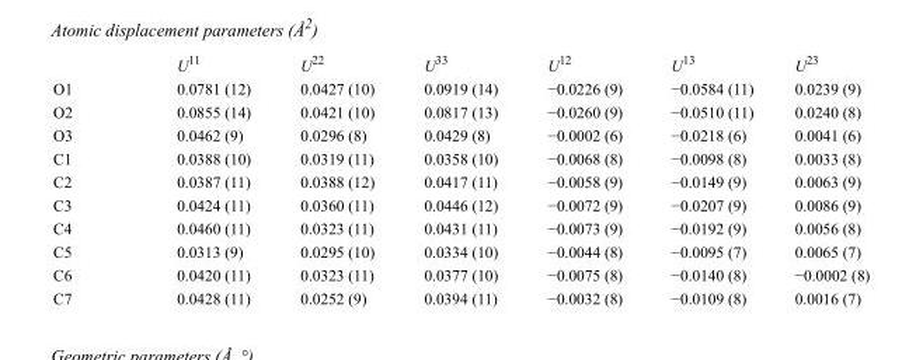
<table><thead><tr><td></td><td>U<sup>11</sup></td><td>U<sup>22</sup></td><td>U<sup>33</sup></td><td>U<sup>12</sup></td><td>U<sup>13</sup></td><td>U<sup>23</sup></td></tr></thead><tbody><tr><td>O1</td><td>0.0781 (12)</td><td>0.0427 (10)</td><td>0.0919 (14)</td><td>−0.0226 (9)</td><td>−0.0584 (11)</td><td>0.0239 (9)</td></tr><tr><td>O2</td><td>0.0855 (14)</td><td>0.0421 (10)</td><td>0.0817 (13)</td><td>−0.0260 (9)</td><td>−0.0510 (11)</td><td>0.0240 (8)</td></tr><tr><td>O3</td><td>0.0462 (9)</td><td>0.0296 (8)</td><td>0.0429 (8)</td><td>−0.0002 (6)</td><td>−0.0218 (6)</td><td>0.0041 (6)</td></tr><tr><td>C1</td><td>0.0388 (10)</td><td>0.0319 (11)</td><td>0.0358 (10)</td><td>−0.0068 (8)</td><td>−0.0098 (8)</td><td>0.0033 (8)</td></tr><tr><td>C2</td><td>0.0387 (11)</td><td>0.0388 (12)</td><td>0.0417 (11)</td><td>−0.0058 (9)</td><td>−0.0149 (9)</td><td>0.0063 (9)</td></tr><tr><td>C3</td><td>0.0424 (11)</td><td>0.0360 (11)</td><td>0.0446 (12)</td><td>−0.0072 (9)</td><td>−0.0207 (9)</td><td>0.0086 (9)</td></tr><tr><td>C4</td><td>0.0460 (11)</td><td>0.0323 (11)</td><td>0.0431 (11)</td><td>−0.0073 (9)</td><td>−0.0192 (9)</td><td>0.0056 (8)</td></tr><tr><td>C5</td><td>0.0313 (9)</td><td>0.0295 (10)</td><td>0.0334 (10)</td><td>−0.0044 (8)</td><td>−0.0095 (7)</td><td>0.0065 (7)</td></tr><tr><td>C6</td><td>0.0420 (11)</td><td>0.0323 (11)</td><td>0.0377 (10)</td><td>−0.0075 (8)</td><td>−0.0140 (8)</td><td>−0.0002 (8)</td></tr><tr><td>C7</td><td>0.0428 (11)</td><td>0.0252 (9)</td><td>0.0394 (11)</td><td>−0.0032 (8)</td><td>−0.0109 (8)</td><td>0.0016 (7)</td></tr></tbody></table>